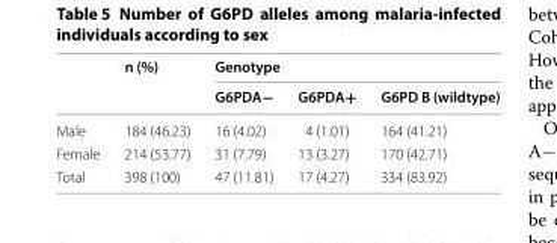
<table><thead><tr><td rowspan="2"></td><td rowspan="2">n (%)</td><td colspan="3">Genotype</td></tr><tr><td>G6PDA−</td><td>G6PDA+</td><td>G6PD B (wildtype)</td></tr></thead><tbody><tr><td>Male</td><td>184 (46.23)</td><td>16 (4.02)</td><td>4 (1.01)</td><td>164 (41.21)</td></tr><tr><td>Female</td><td>214 (53.77)</td><td>31 (7.79)</td><td>13 (3.27)</td><td>170 (42.71)</td></tr><tr><td>Total</td><td>398 (100)</td><td>47 (11.81)</td><td>17 (4.27)</td><td>334 (83.92)</td></tr></tbody></table>